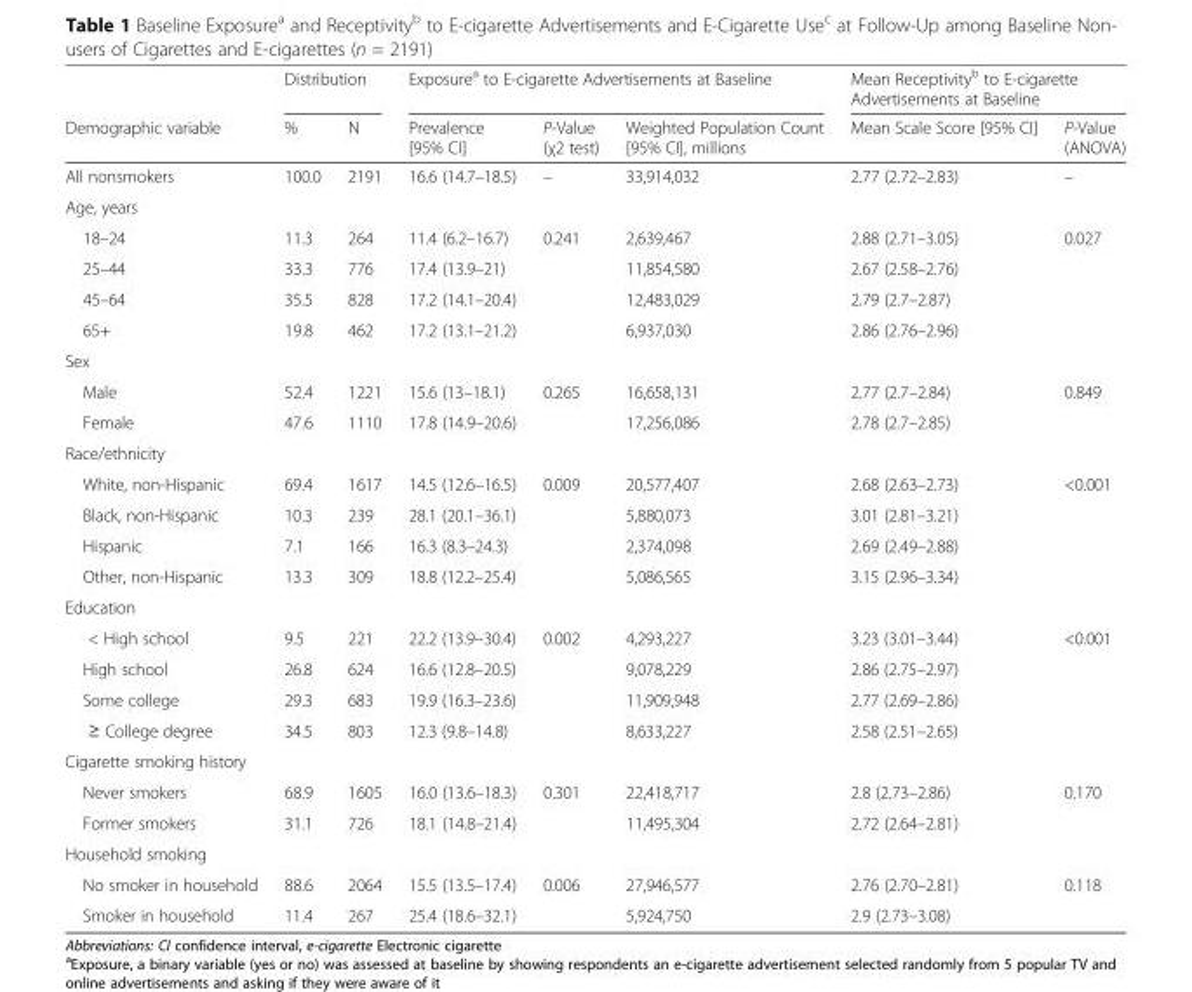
<table><thead><tr><td rowspan="2">Demographic variable</td><td colspan="2">Distribution</td><td colspan="3">Exposure<sup>a</sup> to E-cigarette Advertisements at Baseline</td><td colspan="2">Mean Receptivity<sup>b</sup> to E-cigarette Advertisements at Baseline</td></tr><tr><td>%</td><td>N</td><td>Prevalence [95% CI]</td><td>P-Value (χ2 test)</td><td>Weighted Population Count [95% CI], millions</td><td>Mean Scale Score [95% CI]</td><td>P-Value (ANOVA)</td></tr></thead><tbody><tr><td>All nonsmokers</td><td>100.0</td><td>2191</td><td>16.6 (14.7–18.5)</td><td>–</td><td>33,914,032</td><td>2.77 (2.72–2.83)</td><td>–</td></tr><tr><td colspan="8">Age, years</td></tr><tr><td>18–24</td><td>11.3</td><td>264</td><td>11.4 (6.2–16.7)</td><td rowspan="4">0.241</td><td>2,639,467</td><td>2.88 (2.71–3.05)</td><td rowspan="4">0.027</td></tr><tr><td>25–44</td><td>33.3</td><td>776</td><td>17.4 (13.9–21)</td><td>11,854,580</td><td>2.67 (2.58–2.76)</td></tr><tr><td>45–64</td><td>35.5</td><td>828</td><td>17.2 (14.1–20.4)</td><td>12,483,029</td><td>2.79 (2.7–2.87)</td></tr><tr><td>65+</td><td>19.8</td><td>462</td><td>17.2 (13.1–21.2)</td><td>6,937,030</td><td>2.86 (2.76–2.96)</td></tr><tr><td colspan="8">Sex</td></tr><tr><td>Male</td><td>52.4</td><td>1221</td><td>15.6 (13–18.1)</td><td rowspan="2">0.265</td><td>16,658,131</td><td>2.77 (2.7–2.84)</td><td rowspan="2">0.849</td></tr><tr><td>Female</td><td>47.6</td><td>1110</td><td>17.8 (14.9–20.6)</td><td>17,256,086</td><td>2.78 (2.7–2.85)</td></tr><tr><td colspan="8">Race/ethnicity</td></tr><tr><td>White, non-Hispanic</td><td>69.4</td><td>1617</td><td>14.5 (12.6–16.5)</td><td rowspan="4">0.009</td><td>20,577,407</td><td>2.68 (2.63–2.73)</td><td rowspan="4">&lt;0.001</td></tr><tr><td>Black, non-Hispanic</td><td>10.3</td><td>239</td><td>28.1 (20.1–36.1)</td><td>5,880,073</td><td>3.01 (2.81–3.21)</td></tr><tr><td>Hispanic</td><td>7.1</td><td>166</td><td>16.3 (8.3–24.3)</td><td>2,374,098</td><td>2.69 (2.49–2.88)</td></tr><tr><td>Other, non-Hispanic</td><td>13.3</td><td>309</td><td>18.8 (12.2–25.4)</td><td>5,086,565</td><td>3.15 (2.96–3.34)</td></tr><tr><td colspan="8">Education</td></tr><tr><td>&lt; High school</td><td>9.5</td><td>221</td><td>22.2 (13.9–30.4)</td><td rowspan="4">0.002</td><td>4,293,227</td><td>3.23 (3.01–3.44)</td><td rowspan="4">&lt;0.001</td></tr><tr><td>High school</td><td>26.8</td><td>624</td><td>16.6 (12.8–20.5)</td><td>9,078,229</td><td>2.86 (2.75–2.97)</td></tr><tr><td>Some college</td><td>29.3</td><td>683</td><td>19.9 (16.3–23.6)</td><td>11,909,948</td><td>2.77 (2.69–2.86)</td></tr><tr><td>≥ College degree</td><td>34.5</td><td>803</td><td>12.3 (9.8–14.8)</td><td>8,633,227</td><td>2.58 (2.51–2.65)</td></tr><tr><td colspan="8">Cigarette smoking history</td></tr><tr><td>Never smokers</td><td>68.9</td><td>1605</td><td>16.0 (13.6–18.3)</td><td rowspan="2">0.301</td><td>22,418,717</td><td>2.8 (2.73–2.86)</td><td rowspan="2">0.170</td></tr><tr><td>Former smokers</td><td>31.1</td><td>726</td><td>18.1 (14.8–21.4)</td><td>11,495,304</td><td>2.72 (2.64–2.81)</td></tr><tr><td colspan="8">Household smoking</td></tr><tr><td>No smoker in household</td><td>88.6</td><td>2064</td><td>15.5 (13.5–17.4)</td><td rowspan="2">0.006</td><td>27,946,577</td><td>2.76 (2.70–2.81)</td><td rowspan="2">0.118</td></tr><tr><td>Smoker in household</td><td>11.4</td><td>267</td><td>25.4 (18.6–32.1)</td><td>5,924,750</td><td>2.9 (2.73–3.08)</td></tr></tbody></table>